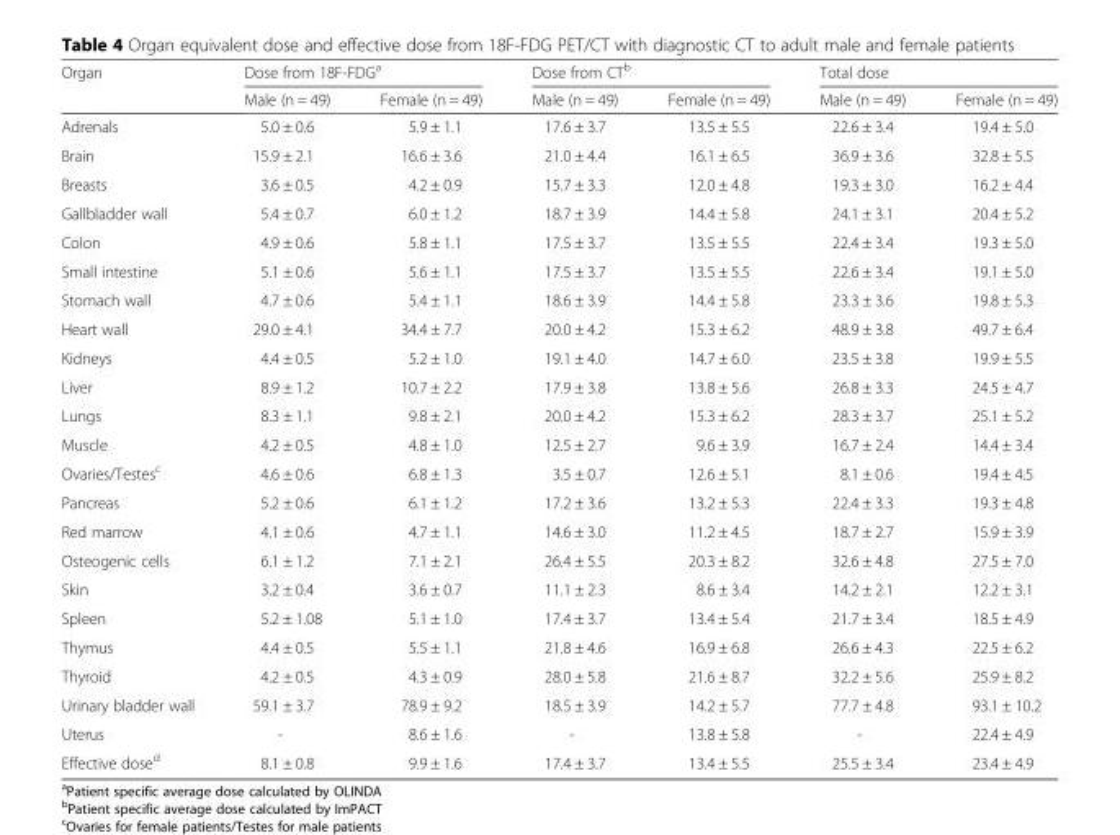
<table><thead><tr><td rowspan="2">Organ</td><td colspan="2">Dose from 18F-FDG<sup>a</sup></td><td colspan="2">Dose from CT<sup>b</sup></td><td colspan="2">Total dose</td></tr><tr><td>Male (n = 49)</td><td>Female (n = 49)</td><td>Male (n = 49)</td><td>Female (n = 49)</td><td>Male (n = 49)</td><td>Female (n = 49)</td></tr></thead><tbody><tr><td>Adrenals</td><td>5.0 ± 0.6</td><td>5.9 ± 1.1</td><td>17.6 ± 3.7</td><td>13.5 ± 5.5</td><td>22.6 ± 3.4</td><td>19.4 ± 5.0</td></tr><tr><td>Brain</td><td>15.9 ± 2.1</td><td>16.6 ± 3.6</td><td>21.0 ± 4.4</td><td>16.1 ± 6.5</td><td>36.9 ± 3.6</td><td>32.8 ± 5.5</td></tr><tr><td>Breasts</td><td>3.6 ± 0.5</td><td>4.2 ± 0.9</td><td>15.7 ± 3.3</td><td>12.0 ± 4.8</td><td>19.3 ± 3.0</td><td>16.2 ± 4.4</td></tr><tr><td>Gallbladder wall</td><td>5.4 ± 0.7</td><td>6.0 ± 1.2</td><td>18.7 ± 3.9</td><td>14.4 ± 5.8</td><td>24.1 ± 3.1</td><td>20.4 ± 5.2</td></tr><tr><td>Colon</td><td>4.9 ± 0.6</td><td>5.8 ± 1.1</td><td>17.5 ± 3.7</td><td>13.5 ± 5.5</td><td>22.4 ± 3.4</td><td>19.3 ± 5.0</td></tr><tr><td>Small intestine</td><td>5.1 ± 0.6</td><td>5.6 ± 1.1</td><td>17.5 ± 3.7</td><td>13.5 ± 5.5</td><td>22.6 ± 3.4</td><td>19.1 ± 5.0</td></tr><tr><td>Stomach wall</td><td>4.7 ± 0.6</td><td>5.4 ± 1.1</td><td>18.6 ± 3.9</td><td>14.4 ± 5.8</td><td>23.3 ± 3.6</td><td>19.8 ± 5.3</td></tr><tr><td>Heart wall</td><td>29.0 ± 4.1</td><td>34.4 ± 7.7</td><td>20.0 ± 4.2</td><td>15.3 ± 6.2</td><td>48.9 ± 3.8</td><td>49.7 ± 6.4</td></tr><tr><td>Kidneys</td><td>4.4 ± 0.5</td><td>5.2 ± 1.0</td><td>19.1 ± 4.0</td><td>14.7 ± 6.0</td><td>23.5 ± 3.8</td><td>19.9 ± 5.5</td></tr><tr><td>Liver</td><td>8.9 ± 1.2</td><td>10.7 ± 2.2</td><td>17.9 ± 3.8</td><td>13.8 ± 5.6</td><td>26.8 ± 3.3</td><td>24.5 ± 4.7</td></tr><tr><td>Lungs</td><td>8.3 ± 1.1</td><td>9.8 ± 2.1</td><td>20.0 ± 4.2</td><td>15.3 ± 6.2</td><td>28.3 ± 3.7</td><td>25.1 ± 5.2</td></tr><tr><td>Muscle</td><td>4.2 ± 0.5</td><td>4.8 ± 1.0</td><td>12.5 ± 2.7</td><td>9.6 ± 3.9</td><td>16.7 ± 2.4</td><td>14.4 ± 3.4</td></tr><tr><td>Ovaries/Testes<sup>c</sup></td><td>4.6 ± 0.6</td><td>6.8 ± 1.3</td><td>3.5 ± 0.7</td><td>12.6 ± 5.1</td><td>8.1 ± 0.6</td><td>19.4 ± 4.5</td></tr><tr><td>Pancreas</td><td>5.2 ± 0.6</td><td>6.1 ± 1.2</td><td>17.2 ± 3.6</td><td>13.2 ± 5.3</td><td>22.4 ± 3.3</td><td>19.3 ± 4.8</td></tr><tr><td>Red marrow</td><td>4.1 ± 0.6</td><td>4.7 ± 1.1</td><td>14.6 ± 3.0</td><td>11.2 ± 4.5</td><td>18.7 ± 2.7</td><td>15.9 ± 3.9</td></tr><tr><td>Osteogenic cells</td><td>6.1 ± 1.2</td><td>7.1 ± 2.1</td><td>26.4 ± 5.5</td><td>20.3 ± 8.2</td><td>32.6 ± 4.8</td><td>27.5 ± 7.0</td></tr><tr><td>Skin</td><td>3.2 ± 0.4</td><td>3.6 ± 0.7</td><td>11.1 ± 2.3</td><td>8.6 ± 3.4</td><td>14.2 ± 2.1</td><td>12.2 ± 3.1</td></tr><tr><td>Spleen</td><td>5.2 ± 1.08</td><td>5.1 ± 1.0</td><td>17.4 ± 3.7</td><td>13.4 ± 5.4</td><td>21.7 ± 3.4</td><td>18.5 ± 4.9</td></tr><tr><td>Thymus</td><td>4.4 ± 0.5</td><td>5.5 ± 1.1</td><td>21.8 ± 4.6</td><td>16.9 ± 6.8</td><td>26.6 ± 4.3</td><td>22.5 ± 6.2</td></tr><tr><td>Thyroid</td><td>4.2 ± 0.5</td><td>4.3 ± 0.9</td><td>28.0 ± 5.8</td><td>21.6 ± 8.7</td><td>32.2 ± 5.6</td><td>25.9 ± 8.2</td></tr><tr><td>Urinary bladder wall</td><td>59.1 ± 3.7</td><td>78.9 ± 9.2</td><td>18.5 ± 3.9</td><td>14.2 ± 5.7</td><td>77.7 ± 4.8</td><td>93.1 ± 10.2</td></tr><tr><td>Uterus</td><td>-</td><td>8.6 ± 1.6</td><td>-</td><td>13.8 ± 5.8</td><td>-</td><td>22.4 ± 4.9</td></tr><tr><td>Effective dose<sup>d</sup></td><td>8.1 ± 0.8</td><td>9.9 ± 1.6</td><td>17.4 ± 3.7</td><td>13.4 ± 5.5</td><td>25.5 ± 3.4</td><td>23.4 ± 4.9</td></tr></tbody></table>